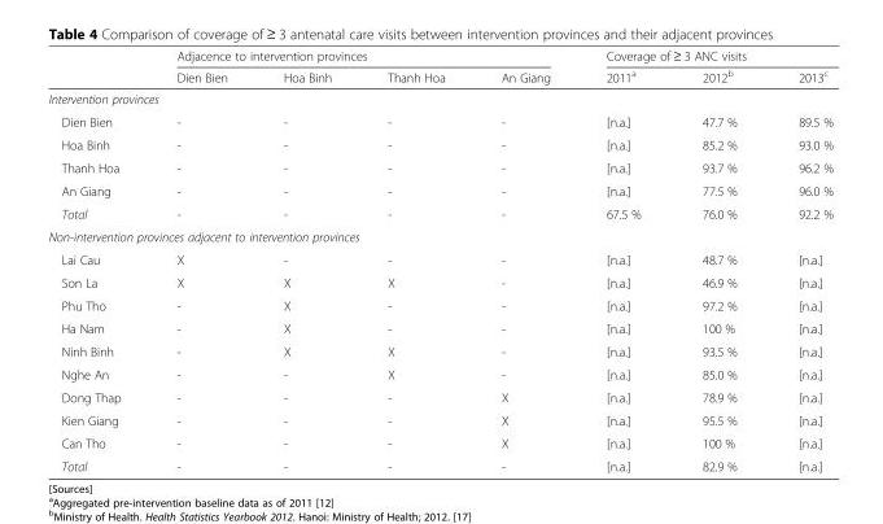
<table><thead><tr><td rowspan="2"></td><td colspan="4">Adjacence to intervention provinces</td><td colspan="3">Coverage of ≥ 3 ANC visits</td></tr><tr><td>Dien Bien</td><td>Hoa Binh</td><td>Thanh Hoa</td><td>An Giang</td><td>2011<sup>a</sup></td><td>2012<sup>b</sup></td><td>2013<sup>c</sup></td></tr></thead><tbody><tr><td colspan="8">Intervention provinces</td></tr><tr><td>Dien Bien</td><td>-</td><td>-</td><td>-</td><td>-</td><td>[n.a.]</td><td>47.7 %</td><td>89.5 %</td></tr><tr><td>Hoa Binh</td><td>-</td><td>-</td><td>-</td><td>-</td><td>[n.a.]</td><td>85.2 %</td><td>93.0 %</td></tr><tr><td>Thanh Hoa</td><td>-</td><td>-</td><td>-</td><td>-</td><td>[n.a.]</td><td>93.7 %</td><td>96.2 %</td></tr><tr><td>An Giang</td><td>-</td><td>-</td><td>-</td><td>-</td><td>[n.a.]</td><td>77.5 %</td><td>96.0 %</td></tr><tr><td>Total</td><td>-</td><td>-</td><td>-</td><td>-</td><td>67.5 %</td><td>76.0 %</td><td>92.2 %</td></tr><tr><td colspan="8">Non-intervention provinces adjacent to intervention provinces</td></tr><tr><td>Lai Cau</td><td>X</td><td>-</td><td>-</td><td>-</td><td>[n.a.]</td><td>48.7 %</td><td>[n.a.]</td></tr><tr><td>Son La</td><td>X</td><td>X</td><td>X</td><td>-</td><td>[n.a.]</td><td>46.9 %</td><td>[n.a.]</td></tr><tr><td>Phu Tho</td><td>-</td><td>X</td><td>-</td><td>-</td><td>[n.a.]</td><td>97.2 %</td><td>[n.a.]</td></tr><tr><td>Ha Nam</td><td>-</td><td>X</td><td>-</td><td>-</td><td>[n.a.]</td><td>100 %</td><td>[n.a.]</td></tr><tr><td>Ninh Binh</td><td>-</td><td>X</td><td>X</td><td>-</td><td>[n.a.]</td><td>93.5 %</td><td>[n.a.]</td></tr><tr><td>Nghe An</td><td>-</td><td>-</td><td>X</td><td>-</td><td>[n.a.]</td><td>85.0 %</td><td>[n.a.]</td></tr><tr><td>Dong Thap</td><td>-</td><td>-</td><td>-</td><td>X</td><td>[n.a.]</td><td>78.9 %</td><td>[n.a.]</td></tr><tr><td>Kien Giang</td><td>-</td><td>-</td><td>-</td><td>X</td><td>[n.a.]</td><td>95.5 %</td><td>[n.a.]</td></tr><tr><td>Can Tho</td><td>-</td><td>-</td><td>-</td><td>X</td><td>[n.a.]</td><td>100 %</td><td>[n.a.]</td></tr><tr><td>Total</td><td>-</td><td>-</td><td>-</td><td>-</td><td>[n.a.]</td><td>82.9 %</td><td>[n.a.]</td></tr></tbody></table>